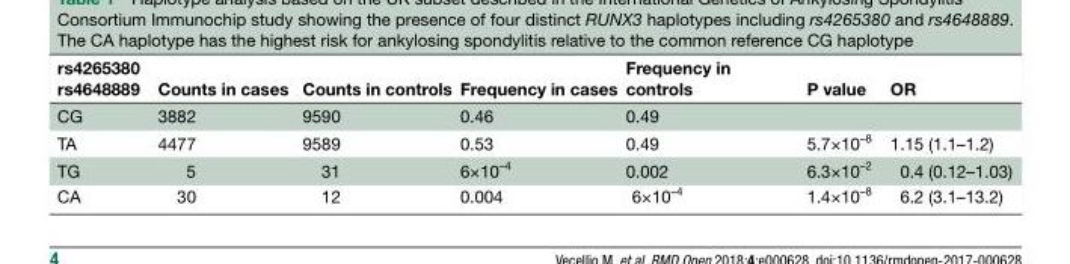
<table><thead><tr><td>rs4265380 rs4648889</td><td>Counts in cases</td><td>Counts in controls</td><td>Frequency in cases</td><td>Frequency in controls</td><td>P value</td><td>OR</td></tr></thead><tbody><tr><td>CG</td><td>3882</td><td>9590</td><td>0.46</td><td>0.49</td><td></td><td></td></tr><tr><td>TA</td><td>4477</td><td>9589</td><td>0.53</td><td>0.49</td><td>5.7×10<sup>–8</sup></td><td>1.15 (1.1–1.2)</td></tr><tr><td>TG</td><td>5</td><td>31</td><td>6×10<sup>–4</sup></td><td>0.002</td><td>6.3×10<sup>–2</sup></td><td>0.4 (0.12–1.03)</td></tr><tr><td>CA</td><td>30</td><td>12</td><td>0.004</td><td>6×10<sup>–4</sup></td><td>1.4×10<sup>–8</sup></td><td>6.2 (3.1–13.2)</td></tr></tbody></table>